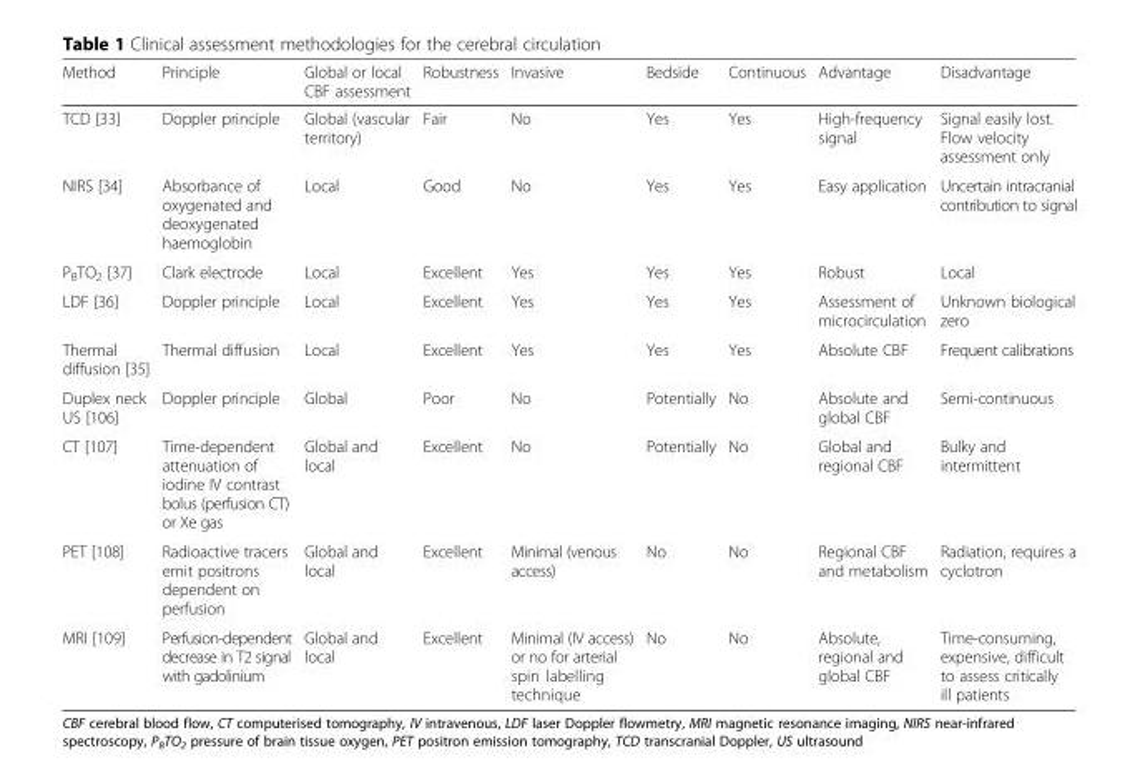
<table><thead><tr><td>Method</td><td>Principle</td><td>Global or local CBF assessment</td><td>Robustness</td><td>Invasive</td><td>Bedside</td><td>Continuous</td><td>Advantage</td><td>Disadvantage</td></tr></thead><tbody><tr><td>TCD [33]</td><td>Doppler principle</td><td>Global (vascular territory)</td><td>Fair</td><td>No</td><td>Yes</td><td>Yes</td><td>High-frequency signal</td><td>Signal easily lost. Flow velocity assessment only</td></tr><tr><td>NIRS [34]</td><td>Absorbance of oxygenated and deoxygenated haemoglobin</td><td>Local</td><td>Good</td><td>No</td><td>Yes</td><td>Yes</td><td>Easy application</td><td>Uncertain intracranial contribution to signal</td></tr><tr><td>P<sub>B</sub>TO<sub>2</sub> [37]</td><td>Clark electrode</td><td>Local</td><td>Excellent</td><td>Yes</td><td>Yes</td><td>Yes</td><td>Robust</td><td>Local</td></tr><tr><td>LDF [36]</td><td>Doppler principle</td><td>Local</td><td>Excellent</td><td>Yes</td><td>Yes</td><td>Yes</td><td>Assessment of microcirculation</td><td>Unknown biological zero</td></tr><tr><td>Thermal diffusion [35]</td><td>Thermal diffusion</td><td>Local</td><td>Excellent</td><td>Yes</td><td>Yes</td><td>Yes</td><td>Absolute CBF</td><td>Frequent calibrations</td></tr><tr><td>Duplex neck US [106]</td><td>Doppler principle</td><td>Global</td><td>Poor</td><td>No</td><td>Potentially</td><td>No</td><td>Absolute and global CBF</td><td>Semi-continuous</td></tr><tr><td>CT [107]</td><td>Time-dependent attenuation of iodine IV contrast bolus (perfusion CT) or Xe gas</td><td>Global and local</td><td>Excellent</td><td>No</td><td>Potentially</td><td>No</td><td>Global and regional CBF</td><td>Bulky and intermittent</td></tr><tr><td>PET [108]</td><td>Radioactive tracers emit positrons dependent on perfusion</td><td>Global and local</td><td>Excellent</td><td>Minimal (venous access)</td><td>No</td><td>No</td><td>Regional CBF and metabolism</td><td>Radiation, requires a cyclotron</td></tr><tr><td>MRI [109]</td><td>Perfusion-dependent decrease in T2 signal with gadolinium</td><td>Global and local</td><td>Excellent</td><td>Minimal (IV access) or no for arterial spin labelling technique</td><td>No</td><td>No</td><td>Absolute, regional and global CBF</td><td>Time-consuming, expensive, difficult to assess critically ill patients</td></tr></tbody></table>